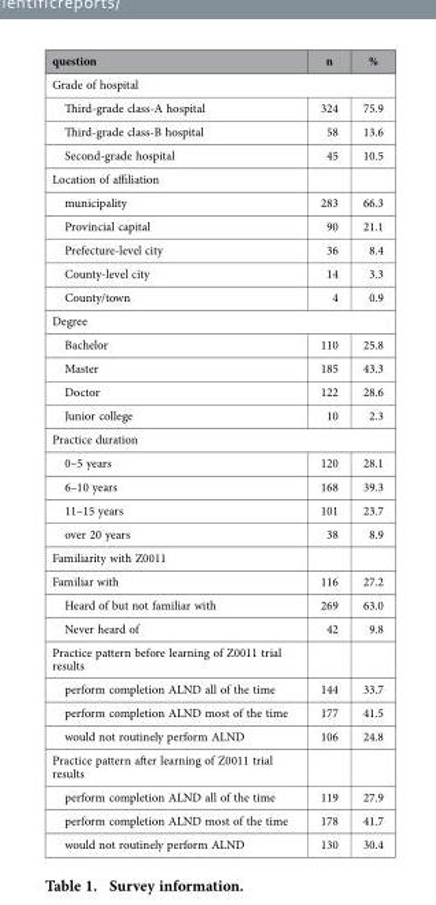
<table><thead><tr><td>question</td><td>n</td><td>%</td></tr></thead><tbody><tr><td colspan="3">Grade of hospital</td></tr><tr><td>Third-grade class-A hospital</td><td>324</td><td>75.9</td></tr><tr><td>Third-grade class-B hospital</td><td>58</td><td>13.6</td></tr><tr><td>Second-grade hospital</td><td>45</td><td>10.5</td></tr><tr><td colspan="3">Location of affiliation</td></tr><tr><td>municipality</td><td>283</td><td>66.3</td></tr><tr><td>Provincial capital</td><td>90</td><td>21.1</td></tr><tr><td>Prefecture-level city</td><td>36</td><td>8.4</td></tr><tr><td>County-level city</td><td>14</td><td>3.3</td></tr><tr><td>County/town</td><td>4</td><td>0.9</td></tr><tr><td colspan="3">Degree</td></tr><tr><td>Bachelor</td><td>110</td><td>25.8</td></tr><tr><td>Master</td><td>185</td><td>43.3</td></tr><tr><td>Doctor</td><td>122</td><td>28.6</td></tr><tr><td>Junior college</td><td>10</td><td>2.3</td></tr><tr><td colspan="3">Practice duration</td></tr><tr><td>0–5 years</td><td>120</td><td>28.1</td></tr><tr><td>6–10 years</td><td>168</td><td>39.3</td></tr><tr><td>11–15 years</td><td>101</td><td>23.7</td></tr><tr><td>over 20 years</td><td>38</td><td>8.9</td></tr><tr><td colspan="3">Familiarity with Z0011</td></tr><tr><td>Familiar with</td><td>116</td><td>27.2</td></tr><tr><td>Heard of but not familiar with</td><td>269</td><td>63.0</td></tr><tr><td>Never heard of</td><td>42</td><td>9.8</td></tr><tr><td colspan="3">Practice pattern before learning of Z0011 trial results</td></tr><tr><td>perform completion ALND all of the time</td><td>144</td><td>33.7</td></tr><tr><td>perform completion ALND most of the time</td><td>177</td><td>41.5</td></tr><tr><td>would not routinely perform ALND</td><td>106</td><td>24.8</td></tr><tr><td colspan="3">Practice pattern after learning of Z0011 trial results</td></tr><tr><td>perform completion ALND all of the time</td><td>119</td><td>27.9</td></tr><tr><td>perform completion ALND most of the time</td><td>178</td><td>41.7</td></tr><tr><td>would not routinely perform ALND</td><td>130</td><td>30.4</td></tr></tbody></table>